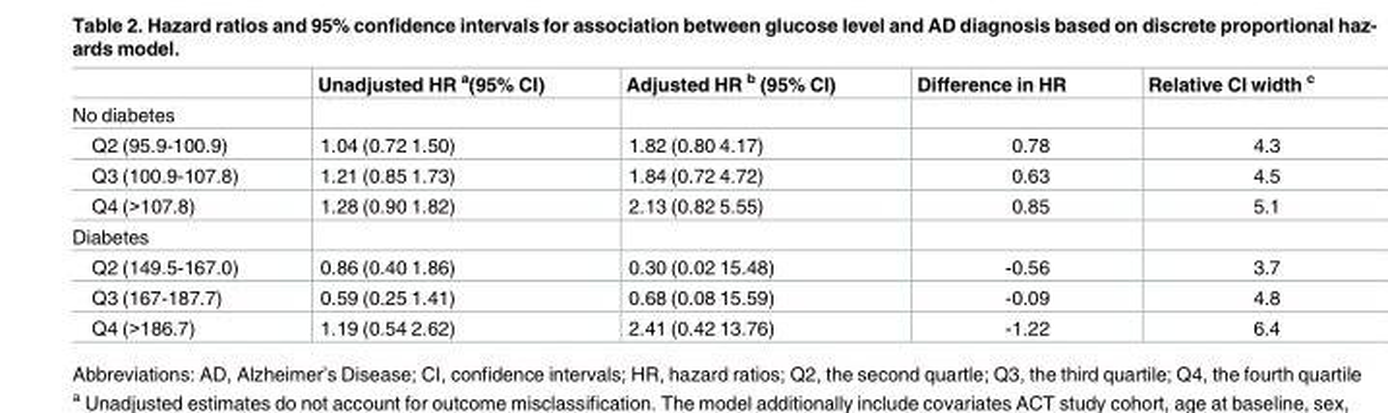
<table><thead><tr><td></td><td>Unadjusted HR <sup>a</sup>(95% CI)</td><td>Adjusted HR <sup>b</sup> (95% CI)</td><td>Difference in HR</td><td>Relative CI width <sup>c</sup></td></tr></thead><tbody><tr><td colspan="5">No diabetes</td></tr><tr><td>Q2 (95.9-100.9)</td><td>1.04 (0.72 1.50)</td><td>1.82 (0.80 4.17)</td><td>0.78</td><td>4.3</td></tr><tr><td>Q3 (100.9-107.8)</td><td>1.21 (0.85 1.73)</td><td>1.84 (0.72 4.72)</td><td>0.63</td><td>4.5</td></tr><tr><td>Q4 (&gt;107.8)</td><td>1.28 (0.90 1.82)</td><td>2.13 (0.82 5.55)</td><td>0.85</td><td>5.1</td></tr><tr><td colspan="5">Diabetes</td></tr><tr><td>Q2 (149.5-167.0)</td><td>0.86 (0.40 1.86)</td><td>0.30 (0.02 15.48)</td><td>-0.56</td><td>3.7</td></tr><tr><td>Q3 (167-187.7)</td><td>0.59 (0.25 1.41)</td><td>0.68 (0.08 15.59)</td><td>-0.09</td><td>4.8</td></tr><tr><td>Q4 (&gt;186.7)</td><td>1.19 (0.54 2.62)</td><td>2.41 (0.42 13.76)</td><td>-1.22</td><td>6.4</td></tr></tbody></table>